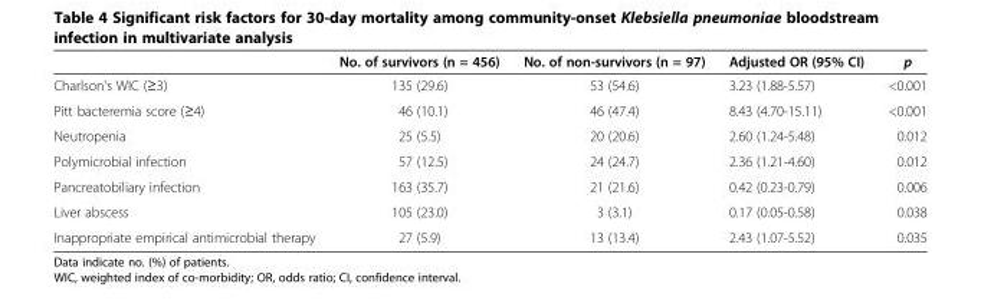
<table><thead><tr><td></td><td>No. of survivors (n = 456)</td><td>No. of non-survivors (n = 97)</td><td>Adjusted OR (95% CI)</td><td>p</td></tr></thead><tbody><tr><td>Charlson&#x27;s WIC (≥3)</td><td>135 (29.6)</td><td>53 (54.6)</td><td>3.23 (1.88-5.57)</td><td>&lt;0.001</td></tr><tr><td>Pitt bacteremia score (≥4)</td><td>46 (10.1)</td><td>46 (47.4)</td><td>8.43 (4.70-15.11)</td><td>&lt;0.001</td></tr><tr><td>Neutropenia</td><td>25 (5.5)</td><td>20 (20.6)</td><td>2.60 (1.24-5.48)</td><td>0.012</td></tr><tr><td>Polymicrobial infection</td><td>57 (12.5)</td><td>24 (24.7)</td><td>2.36 (1.21-4.60)</td><td>0.012</td></tr><tr><td>Pancreatobiliary infection</td><td>163 (35.7)</td><td>21 (21.6)</td><td>0.42 (0.23-0.79)</td><td>0.006</td></tr><tr><td>Liver abscess</td><td>105 (23.0)</td><td>3 (3.1)</td><td>0.17 (0.05-0.58)</td><td>0.038</td></tr><tr><td>Inappropriate empirical antimicrobial therapy</td><td>27 (5.9)</td><td>13 (13.4)</td><td>2.43 (1.07-5.52)</td><td>0.035</td></tr></tbody></table>